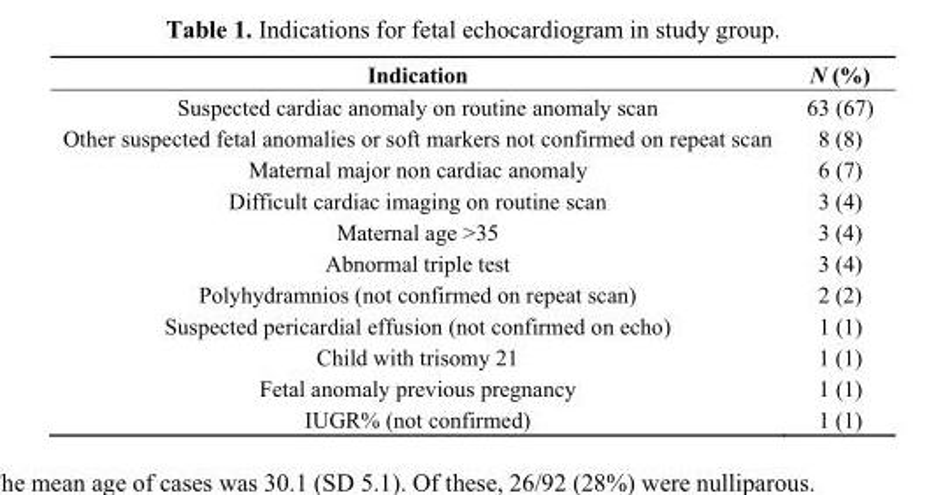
<table><thead><tr><td>Indication</td><td>N (%)</td></tr></thead><tbody><tr><td>Suspected cardiac anomaly on routine anomaly scan</td><td>63 (67)</td></tr><tr><td>Other suspected fetal anomalies or soft markers not confirmed on repeat scan</td><td>8 (8)</td></tr><tr><td>Maternal major non cardiac anomaly</td><td>6 (7)</td></tr><tr><td>Difficult cardiac imaging on routine scan</td><td>3 (4)</td></tr><tr><td>Maternal age &gt;35</td><td>3 (4)</td></tr><tr><td>Abnormal triple test</td><td>3 (4)</td></tr><tr><td>Polyhydramnios (not confirmed on repeat scan)</td><td>2 (2)</td></tr><tr><td>Suspected pericardial effusion (not confirmed on echo)</td><td>1 (1)</td></tr><tr><td>Child with trisomy 21</td><td>1 (1)</td></tr><tr><td>Fetal anomaly previous pregnancy</td><td>1 (1)</td></tr><tr><td>IUGR% (not confirmed)</td><td>1 (1)</td></tr></tbody></table>